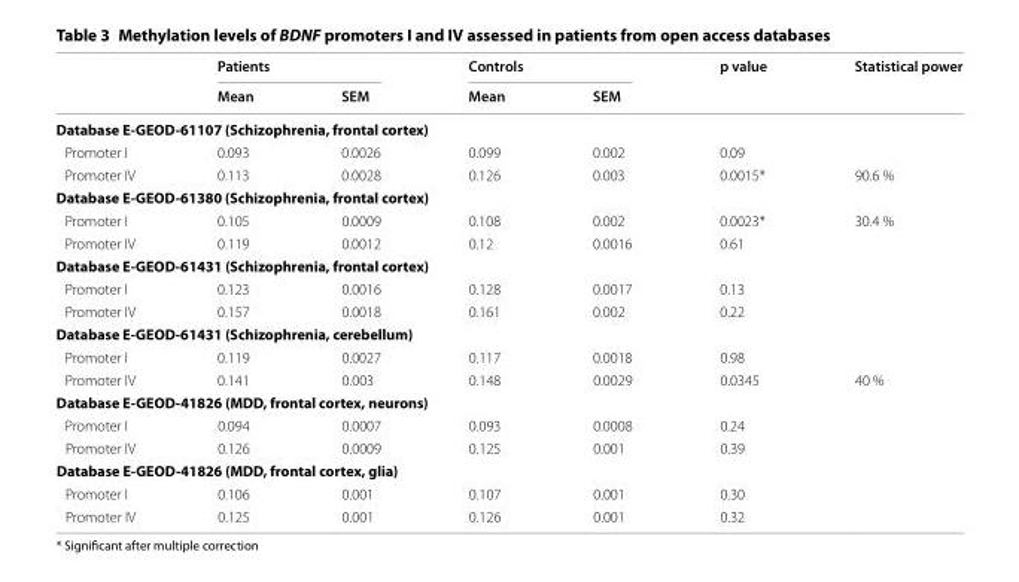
<table><thead><tr><td rowspan="2"></td><td colspan="2">Patients</td><td colspan="2">Controls</td><td rowspan="2">p value</td><td rowspan="2">Statistical power</td></tr><tr><td>Mean</td><td>SEM</td><td>Mean</td><td>SEM</td></tr></thead><tbody><tr><td colspan="7">Database E-GEOD-61107 (Schizophrenia, frontal cortex)</td></tr><tr><td>Promoter I</td><td>0.093</td><td>0.0026</td><td>0.099</td><td>0.002</td><td>0.09</td><td></td></tr><tr><td>Promoter IV</td><td>0.113</td><td>0.0028</td><td>0.126</td><td>0.003</td><td>0.0015*</td><td>90.6 %</td></tr><tr><td colspan="7">Database E-GEOD-61380 (Schizophrenia, frontal cortex)</td></tr><tr><td>Promoter I</td><td>0.105</td><td>0.0009</td><td>0.108</td><td>0.002</td><td>0.0023*</td><td>30.4 %</td></tr><tr><td>Promoter IV</td><td>0.119</td><td>0.0012</td><td>0.12</td><td>0.0016</td><td>0.61</td><td></td></tr><tr><td colspan="7">Database E-GEOD-61431 (Schizophrenia, frontal cortex)</td></tr><tr><td>Promoter I</td><td>0.123</td><td>0.0016</td><td>0.128</td><td>0.0017</td><td>0.13</td><td></td></tr><tr><td>Promoter IV</td><td>0.157</td><td>0.0018</td><td>0.161</td><td>0.002</td><td>0.22</td><td></td></tr><tr><td colspan="7">Database E-GEOD-61431 (Schizophrenia, cerebellum)</td></tr><tr><td>Promoter I</td><td>0.119</td><td>0.0027</td><td>0.117</td><td>0.0018</td><td>0.98</td><td></td></tr><tr><td>Promoter IV</td><td>0.141</td><td>0.003</td><td>0.148</td><td>0.0029</td><td>0.0345</td><td>40 %</td></tr><tr><td colspan="7">Database E-GEOD-41826 (MDD, frontal cortex, neurons)</td></tr><tr><td>Promoter I</td><td>0.094</td><td>0.0007</td><td>0.093</td><td>0.0008</td><td>0.24</td><td></td></tr><tr><td>Promoter IV</td><td>0.126</td><td>0.0009</td><td>0.125</td><td>0.001</td><td>0.39</td><td></td></tr><tr><td colspan="7">Database E-GEOD-41826 (MDD, frontal cortex, glia)</td></tr><tr><td>Promoter I</td><td>0.106</td><td>0.001</td><td>0.107</td><td>0.001</td><td>0.30</td><td></td></tr><tr><td>Promoter IV</td><td>0.125</td><td>0.001</td><td>0.126</td><td>0.001</td><td>0.32</td><td></td></tr></tbody></table>